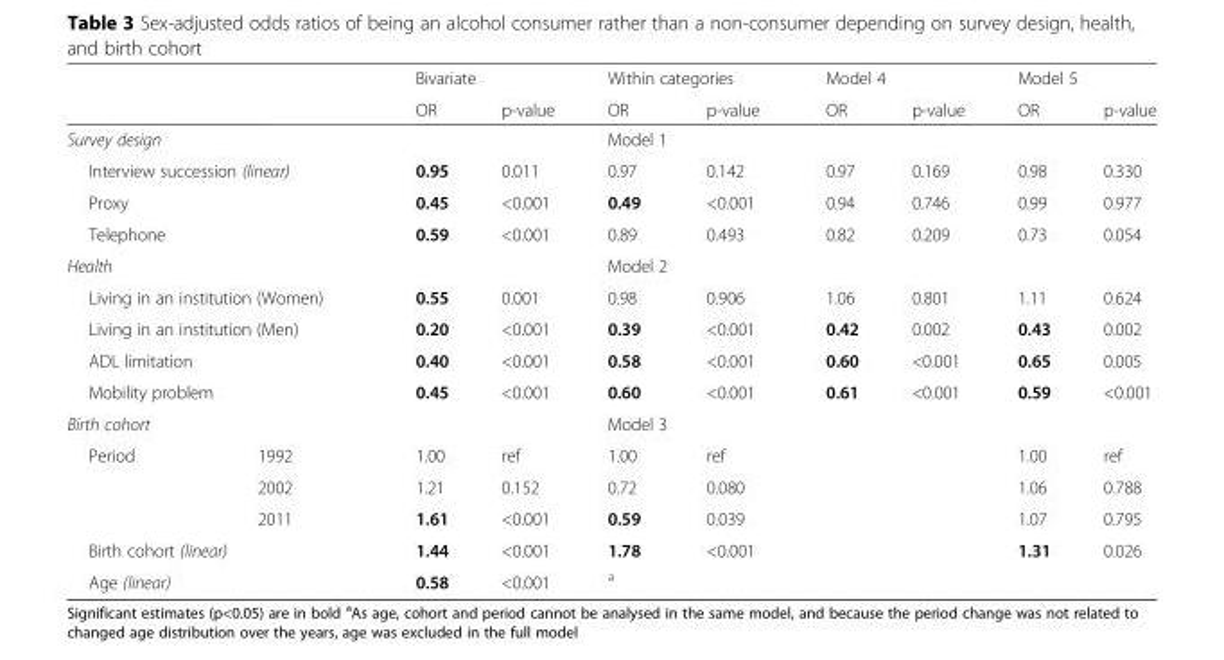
<table><thead><tr><td rowspan="2"></td><td rowspan="2"></td><td colspan="2">Bivariate</td><td colspan="2">Within categories</td><td colspan="2">Model 4</td><td colspan="2">Model 5</td></tr><tr><td>OR</td><td>p-value</td><td>OR</td><td>p-value</td><td>OR</td><td>p-value</td><td>OR</td><td>p-value</td></tr></thead><tbody><tr><td colspan="2">Survey design</td><td></td><td></td><td colspan="2">Model 1</td><td></td><td></td><td></td><td></td></tr><tr><td colspan="2">Interview succession (linear)</td><td>0.95</td><td>0.011</td><td>0.97</td><td>0.142</td><td>0.97</td><td>0.169</td><td>0.98</td><td>0.330</td></tr><tr><td colspan="2">Proxy</td><td>0.45</td><td>&lt;0.001</td><td>0.49</td><td>&lt;0.001</td><td>0.94</td><td>0.746</td><td>0.99</td><td>0.977</td></tr><tr><td colspan="2">Telephone</td><td>0.59</td><td>&lt;0.001</td><td>0.89</td><td>0.493</td><td>0.82</td><td>0.209</td><td>0.73</td><td>0.054</td></tr><tr><td colspan="2">Health</td><td></td><td></td><td colspan="2">Model 2</td><td></td><td></td><td></td><td></td></tr><tr><td colspan="2">Living in an institution (Women)</td><td>0.55</td><td>0.001</td><td>0.98</td><td>0.906</td><td>1.06</td><td>0.801</td><td>1.11</td><td>0.624</td></tr><tr><td colspan="2">Living in an institution (Men)</td><td>0.20</td><td>&lt;0.001</td><td>0.39</td><td>&lt;0.001</td><td>0.42</td><td>0.002</td><td>0.43</td><td>0.002</td></tr><tr><td colspan="2">ADL limitation</td><td>0.40</td><td>&lt;0.001</td><td>0.58</td><td>&lt;0.001</td><td>0.60</td><td>&lt;0.001</td><td>0.65</td><td>0.005</td></tr><tr><td colspan="2">Mobility problem</td><td>0.45</td><td>&lt;0.001</td><td>0.60</td><td>&lt;0.001</td><td>0.61</td><td>&lt;0.001</td><td>0.59</td><td>&lt;0.001</td></tr><tr><td colspan="2">Birth cohort</td><td></td><td></td><td colspan="2">Model 3</td><td></td><td></td><td></td><td></td></tr><tr><td rowspan="3">Period</td><td>1992</td><td>1.00</td><td>ref</td><td>1.00</td><td>ref</td><td></td><td></td><td>1.00</td><td>ref</td></tr><tr><td>2002</td><td>1.21</td><td>0.152</td><td>0.72</td><td>0.080</td><td></td><td></td><td>1.06</td><td>0.788</td></tr><tr><td>2011</td><td>1.61</td><td>&lt;0.001</td><td>0.59</td><td>0.039</td><td></td><td></td><td>1.07</td><td>0.795</td></tr><tr><td colspan="2">Birth cohort (linear)</td><td>1.44</td><td>&lt;0.001</td><td>1.78</td><td>&lt;0.001</td><td></td><td></td><td>1.31</td><td>0.026</td></tr><tr><td colspan="2">Age (linear)</td><td>0.58</td><td>&lt;0.001</td><td><sup>a</sup></td><td></td><td></td><td></td><td></td><td></td></tr></tbody></table>